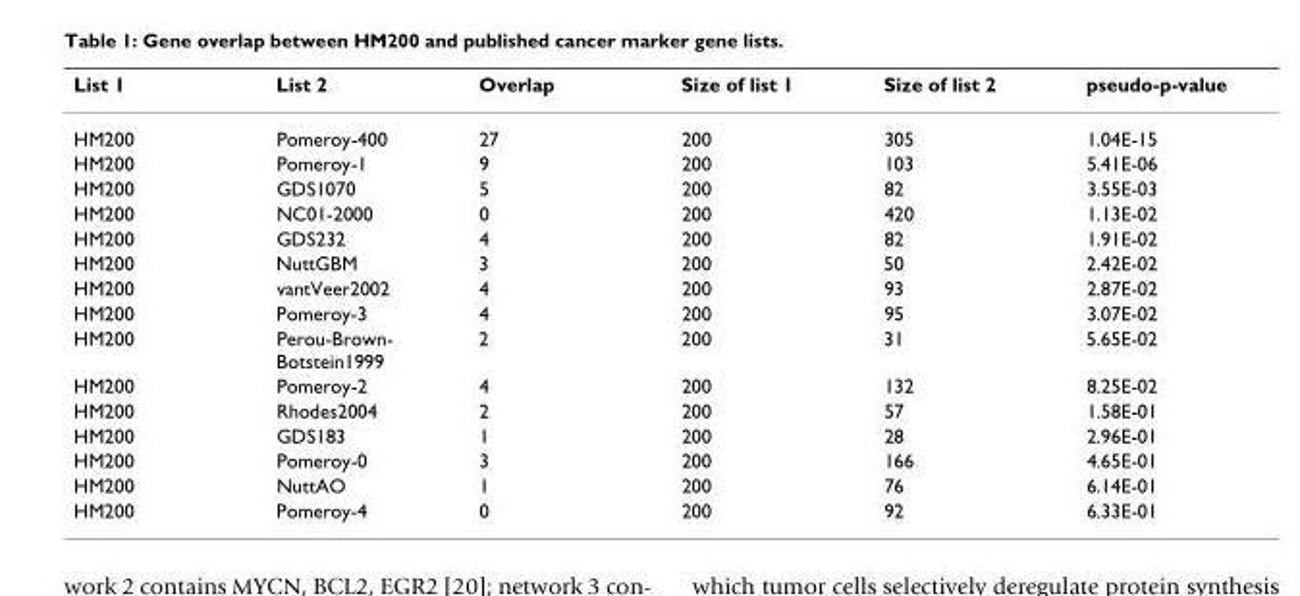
<table><thead><tr><td>List 1</td><td>List 2</td><td>Overlap</td><td>Size of list 1</td><td>Size of list 2</td><td>pseudo-p-value</td></tr></thead><tbody><tr><td>HM200</td><td>Pomeroy-400</td><td>27</td><td>200</td><td>305</td><td>1.04E-15</td></tr><tr><td>HM200</td><td>Pomeroy-1</td><td>9</td><td>200</td><td>103</td><td>5.41E-06</td></tr><tr><td>HM200</td><td>GDS1070</td><td>5</td><td>200</td><td>82</td><td>3.55E-03</td></tr><tr><td>HM200</td><td>NC01-2000</td><td>0</td><td>200</td><td>420</td><td>1.13E-02</td></tr><tr><td>HM200</td><td>GDS232</td><td>4</td><td>200</td><td>82</td><td>1.91E-02</td></tr><tr><td>HM200</td><td>NuttGBM</td><td>3</td><td>200</td><td>50</td><td>2.42E-02</td></tr><tr><td>HM200</td><td>vantVeer2002</td><td>4</td><td>200</td><td>93</td><td>2.87E-02</td></tr><tr><td>HM200</td><td>Pomeroy-3</td><td>4</td><td>200</td><td>95</td><td>3.07E-02</td></tr><tr><td>HM200</td><td>Perou-Brown- Botstein1999</td><td>2</td><td>200</td><td>31</td><td>5.65E-02</td></tr><tr><td>HM200</td><td>Pomeroy-2</td><td>4</td><td>200</td><td>132</td><td>8.25E-02</td></tr><tr><td>HM200</td><td>Rhodes2004</td><td>2</td><td>200</td><td>57</td><td>1.58E-01</td></tr><tr><td>HM200</td><td>GDS183</td><td>1</td><td>200</td><td>28</td><td>2.96E-01</td></tr><tr><td>HM200</td><td>Pomeroy-0</td><td>3</td><td>200</td><td>166</td><td>4.65E-01</td></tr><tr><td>HM200</td><td>NuttAO</td><td>1</td><td>200</td><td>76</td><td>6.14E-01</td></tr><tr><td>HM200</td><td>Pomeroy-4</td><td>0</td><td>200</td><td>92</td><td>6.33E-01</td></tr></tbody></table>